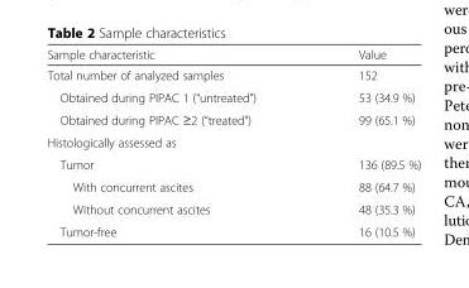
<table><thead><tr><td>Sample characteristic</td><td>Value</td></tr></thead><tbody><tr><td>Total number of analyzed samples</td><td>152</td></tr><tr><td>Obtained during PIPAC 1 (“untreated”)</td><td>53 (34.9 %)</td></tr><tr><td>Obtained during PIPAC ≥2 (“treated”)</td><td>99 (65.1 %)</td></tr><tr><td colspan="2">Histologically assessed as</td></tr><tr><td>Tumor</td><td>136 (89.5 %)</td></tr><tr><td>With concurrent ascites</td><td>88 (64.7 %)</td></tr><tr><td>Without concurrent ascites</td><td>48 (35.3 %)</td></tr><tr><td>Tumor-free</td><td>16 (10.5 %)</td></tr></tbody></table>